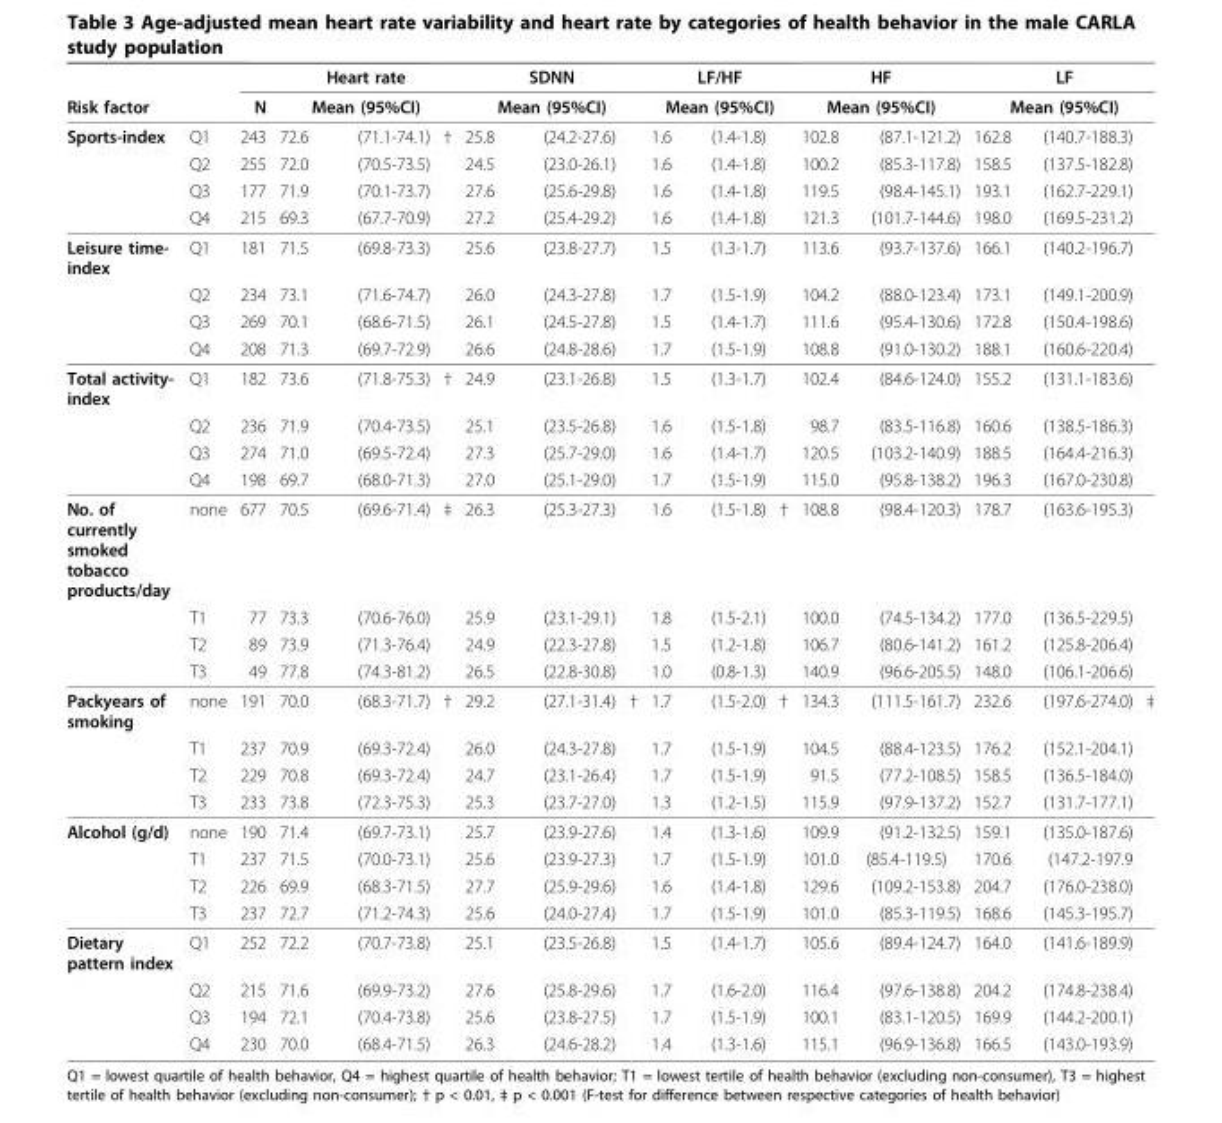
<table><thead><tr><td rowspan="3">Risk factor Sports-index</td><td rowspan="3">Q1</td><td rowspan="3">N 243</td><td rowspan="2" colspan="3">Heart rate Mean (95%CI)</td><td rowspan="2" colspan="3">SDNN Mean (95%CI)</td><td rowspan="2" colspan="3">LF/HF Mean (95%CI)</td><td rowspan="2" colspan="2">HF Mean (95%CI)</td><td rowspan="2" colspan="3">LF Mean (95%CI)</td></tr><tr></tr><tr><td>72.6</td><td>(71.1-74.1)</td><td>†</td><td>25.8</td><td>(24.2-27.6)</td><td></td><td>1.6</td><td>(1.4-1.8)</td><td></td><td>102.8</td><td>(87.1-121.2)</td><td>162.8</td><td>(140.7-188.3)</td><td></td></tr></thead><tbody><tr><td></td><td>Q2</td><td>255</td><td>72.0</td><td>(70.5-73.5)</td><td></td><td>24.5</td><td>(23.0-26.1)</td><td></td><td>1.6</td><td>(1.4-1.8)</td><td></td><td>100.2</td><td>(85.3-117.8)</td><td>158.5</td><td>(137.5-182.8)</td><td></td></tr><tr><td></td><td>Q3</td><td>177</td><td>71.9</td><td>(70.1-73.7)</td><td></td><td>27.6</td><td>(25.6-29.8)</td><td></td><td>1.6</td><td>(1.4-1.8)</td><td></td><td>119.5</td><td>(98.4-145.1)</td><td>193.1</td><td>(162.7-229.1)</td><td></td></tr><tr><td></td><td>Q4</td><td>215</td><td>69.3</td><td>(67.7-70.9)</td><td></td><td>27.2</td><td>(25.4-29.2)</td><td></td><td>1.6</td><td>(1.4-1.8)</td><td></td><td>121.3</td><td>(101.7-144.6)</td><td>198.0</td><td>(169.5-231.2)</td><td></td></tr><tr><td rowspan="4">Leisure time- index</td><td>Q1</td><td>181</td><td>71.5</td><td>(69.8-73.3)</td><td></td><td>25.6</td><td>(23.8-27.7)</td><td></td><td>1.5</td><td>(1.3-1.7)</td><td></td><td>113.6</td><td>(93.7-137.6)</td><td>166.1</td><td>(140.2-196.7)</td><td></td></tr><tr><td>Q2</td><td>234</td><td>73.1</td><td>(71.6-74.7)</td><td></td><td>26.0</td><td>(24.3-27.8)</td><td></td><td>1.7</td><td>(1.5-1.9)</td><td></td><td>104.2</td><td>(88.0-123.4)</td><td>173.1</td><td>(149.1-200.9)</td><td></td></tr><tr><td>Q3</td><td>269</td><td>70.1</td><td>(68.6-71.5)</td><td></td><td>26.1</td><td>(24.5-27.8)</td><td></td><td>1.5</td><td>(1.4-1.7)</td><td></td><td>111.6</td><td>(95.4-130.6)</td><td>172.8</td><td>(150.4-198.6)</td><td></td></tr><tr><td>Q4</td><td>208</td><td>71.3</td><td>(69.7-72.9)</td><td></td><td>26.6</td><td>(24.8-28.6)</td><td></td><td>1.7</td><td>(1.5-1.9)</td><td></td><td>108.8</td><td>(91.0-130.2)</td><td>188.1</td><td>(160.6-220.4)</td><td></td></tr><tr><td rowspan="4">Total activity- index</td><td>Q1</td><td>182</td><td>73.6</td><td>(71.8-75.3)</td><td>†</td><td>24.9</td><td>(23.1-26.8)</td><td></td><td>1.5</td><td>(1.3-1.7)</td><td></td><td>102.4</td><td>(84.6-124.0)</td><td>155.2</td><td>(131.1-183.6)</td><td></td></tr><tr><td>Q2</td><td>236</td><td>71.9</td><td>(70.4-73.5)</td><td></td><td>25.1</td><td>(23.5-26.8)</td><td></td><td>1.6</td><td>(1.5-1.8)</td><td></td><td>98.7</td><td>(83.5-116.8)</td><td>160.6</td><td>(138.5-186.3)</td><td></td></tr><tr><td>Q3</td><td>274</td><td>71.0</td><td>(69.5-72.4)</td><td></td><td>27.3</td><td>(25.7-29.0)</td><td></td><td>1.6</td><td>(1.4-1.7)</td><td></td><td>120.5</td><td>(103.2-140.9)</td><td>188.5</td><td>(164.4-216.3)</td><td></td></tr><tr><td>Q4</td><td>198</td><td>69.7</td><td>(68.0-71.3)</td><td></td><td>27.0</td><td>(25.1-29.0)</td><td></td><td>1.7</td><td>(1.5-1.9)</td><td></td><td>115.0</td><td>(95.8-138.2)</td><td>196.3</td><td>(167.0-230.8)</td><td></td></tr><tr><td rowspan="4">No. of currently smoked tobacco products/day</td><td>none</td><td>677</td><td>70.5</td><td>(69.6-71.4)</td><td>‡</td><td>26.3</td><td>(25.3-27.3)</td><td></td><td>1.6</td><td>(1.5-1.8)</td><td>†</td><td>108.8</td><td>(98.4-120.3)</td><td>178.7</td><td>(163.6-195.3)</td><td></td></tr><tr><td>T1</td><td>77</td><td>73.3</td><td>(70.6-76.0)</td><td></td><td>25.9</td><td>(23.1-29.1)</td><td></td><td>1.8</td><td>(1.5-2.1)</td><td></td><td>100.0</td><td>(74.5-134.2)</td><td>177.0</td><td>(136.5-229.5)</td><td></td></tr><tr><td>T2</td><td>89</td><td>73.9</td><td>(71.3-76.4)</td><td></td><td>24.9</td><td>(22.3-27.8)</td><td></td><td>1.5</td><td>(1.2-1.8)</td><td></td><td>106.7</td><td>(80.6-141.2)</td><td>161.2</td><td>(125.8-206.4)</td><td></td></tr><tr><td>T3</td><td>49</td><td>77.8</td><td>(74.3-81.2)</td><td></td><td>26.5</td><td>(22.8-30.8)</td><td></td><td>1.0</td><td>(0.8-1.3)</td><td></td><td>140.9</td><td>(96.6-205.5)</td><td>148.0</td><td>(106.1-206.6)</td><td></td></tr><tr><td rowspan="4">Packyears of smoking</td><td>none</td><td>191</td><td>70.0</td><td>(68.3-71.7)</td><td>†</td><td>29.2</td><td>(27.1-31.4)</td><td>†</td><td>1.7</td><td>(1.5-2.0)</td><td>†</td><td>134.3</td><td>(111.5-161.7)</td><td>232.6</td><td>(197.6-274.0)</td><td>‡</td></tr><tr><td>T1</td><td>237</td><td>70.9</td><td>(69.3-72.4)</td><td></td><td>26.0</td><td>(24.3-27.8)</td><td></td><td>1.7</td><td>(1.5-1.9)</td><td></td><td>104.5</td><td>(88.4-123.5)</td><td>176.2</td><td>(152.1-204.1)</td><td></td></tr><tr><td>T2</td><td>229</td><td>70.8</td><td>(69.3-72.4)</td><td></td><td>24.7</td><td>(23.1-26.4)</td><td></td><td>1.7</td><td>(1.5-1.9)</td><td></td><td>91.5</td><td>(77.2-108.5)</td><td>158.5</td><td>(136.5-184.0)</td><td></td></tr><tr><td>T3</td><td>233</td><td>73.8</td><td>(72.3-75.3)</td><td></td><td>25.3</td><td>(23.7-27.0)</td><td></td><td>1.3</td><td>(1.2-1.5)</td><td></td><td>115.9</td><td>(97.9-137.2)</td><td>152.7</td><td>(131.7-177.1)</td><td></td></tr><tr><td rowspan="4">Alcohol (g/d)</td><td>none</td><td>190</td><td>71.4</td><td>(69.7-73.1)</td><td></td><td>25.7</td><td>(23.9-27.6)</td><td></td><td>1.4</td><td>(1.3-1.6)</td><td></td><td>109.9</td><td>(91.2-132.5)</td><td>159.1</td><td>(135.0-187.6)</td><td></td></tr><tr><td>T1</td><td>237</td><td>71.5</td><td>(70.0-73.1)</td><td></td><td>25.6</td><td>(23.9-27.3)</td><td></td><td>1.7</td><td>(1.5-1.9)</td><td></td><td>101.0</td><td>(85.4-119.5)</td><td>170.6</td><td>(147.2-197.9</td><td></td></tr><tr><td>T2</td><td>226</td><td>69.9</td><td>(68.3-71.5)</td><td></td><td>27.7</td><td>(25.9-29.6)</td><td></td><td>1.6</td><td>(1.4-1.8)</td><td></td><td>129.6</td><td>(109.2-153.8)</td><td>204.7</td><td>(176.0-238.0)</td><td></td></tr><tr><td>T3</td><td>237</td><td>72.7</td><td>(71.2-74.3)</td><td></td><td>25.6</td><td>(24.0-27.4)</td><td></td><td>1.7</td><td>(1.5-1.9)</td><td></td><td>101.0</td><td>(85.3-119.5)</td><td>168.6</td><td>(145.3-195.7)</td><td></td></tr><tr><td rowspan="4">Dietary pattern index</td><td>Q1</td><td>252</td><td>72.2</td><td>(70.7-73.8)</td><td></td><td>25.1</td><td>(23.5-26.8)</td><td></td><td>1.5</td><td>(1.4-1.7)</td><td></td><td>105.6</td><td>(89.4-124.7)</td><td>164.0</td><td>(141.6-189.9)</td><td></td></tr><tr><td>Q2</td><td>215</td><td>71.6</td><td>(69.9-73.2)</td><td></td><td>27.6</td><td>(25.8-29.6)</td><td></td><td>1.7</td><td>(1.6-2.0)</td><td></td><td>116.4</td><td>(97.6-138.8)</td><td>204.2</td><td>(174.8-238.4)</td><td></td></tr><tr><td>Q3</td><td>194</td><td>72.1</td><td>(70.4-73.8)</td><td></td><td>25.6</td><td>(23.8-27.5)</td><td></td><td>1.7</td><td>(1.5-1.9)</td><td></td><td>100.1</td><td>(83.1-120.5)</td><td>169.9</td><td>(144.2-200.1)</td><td></td></tr><tr><td>Q4</td><td>230</td><td>70.0</td><td>(68.4-71.5)</td><td></td><td>26.3</td><td>(24.6-28.2)</td><td></td><td>1.4</td><td>(1.3-1.6)</td><td></td><td>115.1</td><td>(96.9-136.8)</td><td>166.5</td><td>(143.0-193.9)</td><td></td></tr></tbody></table>